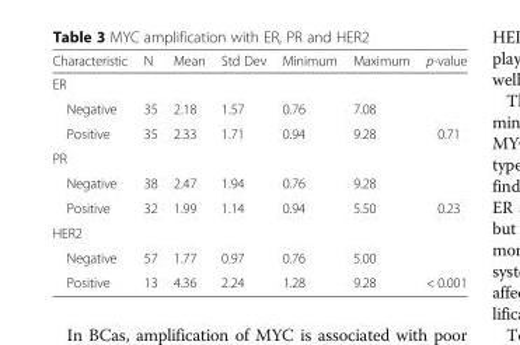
<table><thead><tr><td>Characteristic</td><td>N</td><td>Mean</td><td>Std Dev</td><td>Minimum</td><td>Maximum</td><td>p-value</td></tr></thead><tbody><tr><td colspan="7">ER</td></tr><tr><td>Negative</td><td>35</td><td>2.18</td><td>1.57</td><td>0.76</td><td>7.08</td><td></td></tr><tr><td>Positive</td><td>35</td><td>2.33</td><td>1.71</td><td>0.94</td><td>9.28</td><td>0.71</td></tr><tr><td colspan="7">PR</td></tr><tr><td>Negative</td><td>38</td><td>2.47</td><td>1.94</td><td>0.76</td><td>9.28</td><td></td></tr><tr><td>Positive</td><td>32</td><td>1.99</td><td>1.14</td><td>0.94</td><td>5.50</td><td>0.23</td></tr><tr><td colspan="7">HER2</td></tr><tr><td>Negative</td><td>57</td><td>1.77</td><td>0.97</td><td>0.76</td><td>5.00</td><td></td></tr><tr><td>Positive</td><td>13</td><td>4.36</td><td>2.24</td><td>1.28</td><td>9.28</td><td>&lt; 0.001</td></tr></tbody></table>